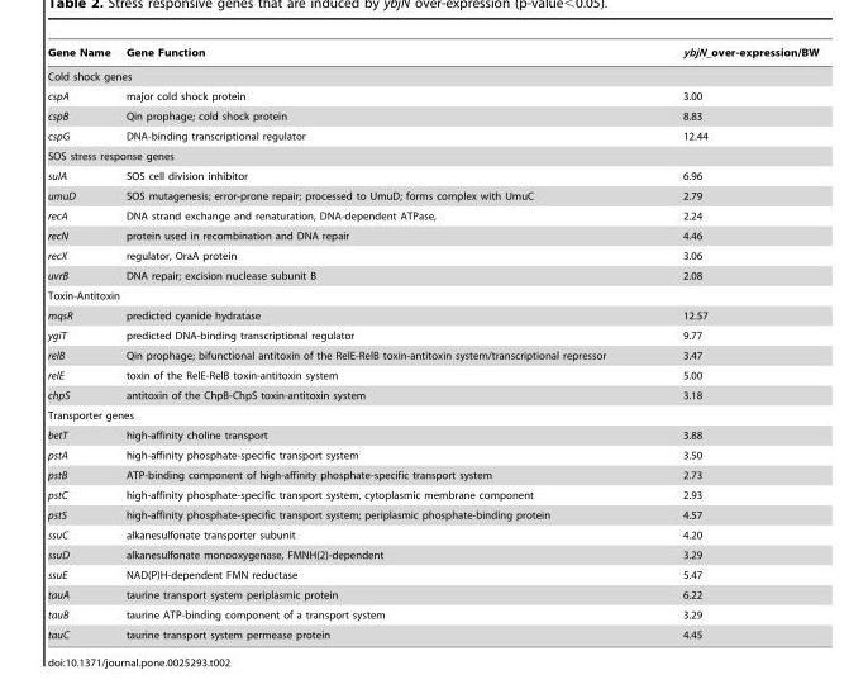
<table><thead><tr><td>Gene Name</td><td>Gene Function</td><td>ybjN_over-expression/BW</td></tr></thead><tbody><tr><td colspan="3">Cold shock genes</td></tr><tr><td>cspA</td><td>major cold shock protein</td><td>3.00</td></tr><tr><td>cspB</td><td>Qin prophage; cold shock protein</td><td>8.83</td></tr><tr><td>cspG</td><td>DNA-binding transcriptional regulator</td><td>12.44</td></tr><tr><td colspan="3">SOS stress response genes</td></tr><tr><td>sulA</td><td>SOS cell division inhibitor</td><td>6.96</td></tr><tr><td>umuD</td><td>SOS mutagenesis; error-prone repair; processed to UmuD; forms complex with UmuC</td><td>2.79</td></tr><tr><td>recA</td><td>DNA strand exchange and renaturation, DNA-dependent ATPase,</td><td>2.24</td></tr><tr><td>recN</td><td>protein used in recombination and DNA repair</td><td>4.46</td></tr><tr><td>recX</td><td>regulator, OraA protein</td><td>3.06</td></tr><tr><td>uvrB</td><td>DNA repair; excision nuclease subunit B</td><td>2.08</td></tr><tr><td colspan="3">Toxin-Antitoxin</td></tr><tr><td>mqsR</td><td>predicted cyanide hydratase</td><td>12.57</td></tr><tr><td>ygiT</td><td>predicted DNA-binding transcriptional regulator</td><td>9.77</td></tr><tr><td>relB</td><td>Qin prophage; bifunctional antitoxin of the RelE-RelB toxin-antitoxin system/transcriptional repressor</td><td>3.47</td></tr><tr><td>relE</td><td>toxin of the RelE-RelB toxin-antitoxin system</td><td>5.00</td></tr><tr><td>chpS</td><td>antitoxin of the ChpB-ChpS toxin-antitoxin system</td><td>3.18</td></tr><tr><td colspan="3">Transporter genes</td></tr><tr><td>betT</td><td>high-affinity choline transport</td><td>3.88</td></tr><tr><td>pstA</td><td>high-affinity phosphate-specific transport system</td><td>3.50</td></tr><tr><td>pstB</td><td>ATP-binding component of high-affinity phosphate-specific transport system</td><td>2.73</td></tr><tr><td>pstC</td><td>high-affinity phosphate-specific transport system, cytoplasmic membrane component</td><td>2.93</td></tr><tr><td>pstS</td><td>high-affinity phosphate-specific transport system; periplasmic phosphate-binding protein</td><td>4.57</td></tr><tr><td>ssuC</td><td>alkanesulfonate transporter subunit</td><td>4.20</td></tr><tr><td>ssuD</td><td>alkanesulfonate monooxygenase, FMNH(2)-dependent</td><td>3.29</td></tr><tr><td>ssuE</td><td>NAD(P)H-dependent FMN reductase</td><td>5.47</td></tr><tr><td>tauA</td><td>taurine transport system periplasmic protein</td><td>6.22</td></tr><tr><td>tauB</td><td>taurine ATP-binding component of a transport system</td><td>3.29</td></tr><tr><td>tauC</td><td>taurine transport system permease protein</td><td>4.45</td></tr></tbody></table>